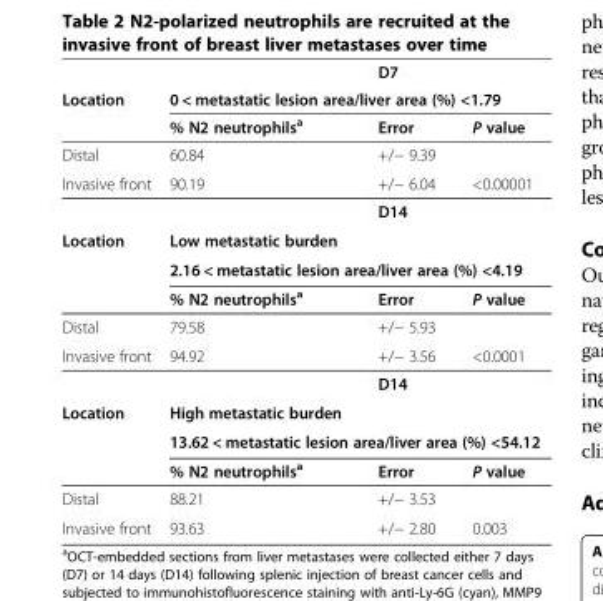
<table><thead><tr><td rowspan="3">Location</td><td></td><td>D7</td><td></td></tr><tr><td colspan="3">0 &lt; metastatic lesion area/liver area (%) &lt;1.79</td></tr><tr><td>% N2 neutrophils<sup>a</sup></td><td>Error</td><td>P value</td></tr></thead><tbody><tr><td>Distal</td><td>60.84</td><td>+/− 9.39</td><td></td></tr><tr><td rowspan="2">Invasive front</td><td>90.19</td><td>+/− 6.04</td><td>&lt;0.00001</td></tr><tr><td></td><td>D14</td><td></td></tr><tr><td rowspan="3">Location</td><td>Low metastatic burden</td><td></td><td></td></tr><tr><td colspan="3">2.16 &lt; metastatic lesion area/liver area (%) &lt;4.19</td></tr><tr><td>% N2 neutrophils<sup>a</sup></td><td>Error</td><td>P value</td></tr><tr><td>Distal</td><td>79.58</td><td>+/− 5.93</td><td></td></tr><tr><td rowspan="2">Invasive front</td><td>94.92</td><td>+/− 3.56</td><td>&lt;0.0001</td></tr><tr><td></td><td>D14</td><td></td></tr><tr><td rowspan="3">Location</td><td>High metastatic burden</td><td></td><td></td></tr><tr><td colspan="3">13.62 &lt; metastatic lesion area/liver area (%) &lt;54.12</td></tr><tr><td>% N2 neutrophils<sup>a</sup></td><td>Error</td><td>P value</td></tr><tr><td>Distal</td><td>88.21</td><td>+/− 3.53</td><td></td></tr><tr><td>Invasive front</td><td>93.63</td><td>+/− 2.80</td><td>0.003</td></tr></tbody></table>